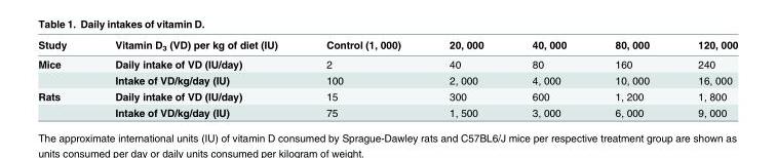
<table><thead><tr><td>Study</td><td>Vitamin D<sub>3</sub> (VD) per kg of diet (IU)</td><td>Control (1, 000)</td><td>20, 000</td><td>40, 000</td><td>80, 000</td><td>120, 000</td></tr></thead><tbody><tr><td rowspan="2">Mice</td><td>Daily intake of VD (IU/day)</td><td>2</td><td>40</td><td>80</td><td>160</td><td>240</td></tr><tr><td>Intake of VD/kg/day (IU)</td><td>100</td><td>2, 000</td><td>4, 000</td><td>10, 000</td><td>16, 000</td></tr><tr><td rowspan="2">Rats</td><td>Daily intake of VD (IU/day)</td><td>15</td><td>300</td><td>600</td><td>1, 200</td><td>1, 800</td></tr><tr><td>Intake of VD/kg/day (IU)</td><td>75</td><td>1, 500</td><td>3, 000</td><td>6, 000</td><td>9, 000</td></tr></tbody></table>